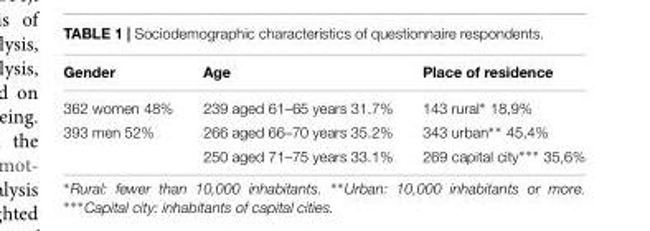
<table><thead><tr><td>Gender</td><td>Age</td><td>Place of residence</td></tr></thead><tbody><tr><td>362 women 48%</td><td>239 aged 61–65 years 31.7%</td><td>143 rural∗ 18,9%</td></tr><tr><td rowspan="2">393 men 52%</td><td>266 aged 66–70 years 35.2%</td><td>343 urban∗∗ 45,4%</td></tr><tr><td>250 aged 71–75 years 33.1%</td><td>269 capital city∗∗∗ 35,6%</td></tr></tbody></table>